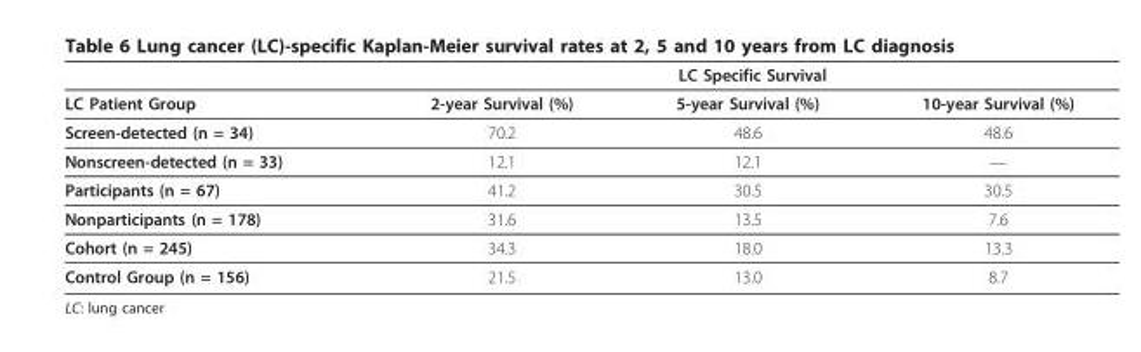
<table><thead><tr><td rowspan="2">LC Patient Group</td><td colspan="3">LC Specific Survival</td></tr><tr><td>2-year Survival (%)</td><td>5-year Survival (%)</td><td>10-year Survival (%)</td></tr></thead><tbody><tr><td>Screen-detected (n = 34)</td><td>70.2</td><td>48.6</td><td>48.6</td></tr><tr><td>Nonscreen-detected (n = 33)</td><td>12.1</td><td>12.1</td><td>—</td></tr><tr><td>Participants (n = 67)</td><td>41.2</td><td>30.5</td><td>30.5</td></tr><tr><td>Nonparticipants (n = 178)</td><td>31.6</td><td>13.5</td><td>7.6</td></tr><tr><td>Cohort (n = 245)</td><td>34.3</td><td>18.0</td><td>13.3</td></tr><tr><td>Control Group (n = 156)</td><td>21.5</td><td>13.0</td><td>8.7</td></tr></tbody></table>